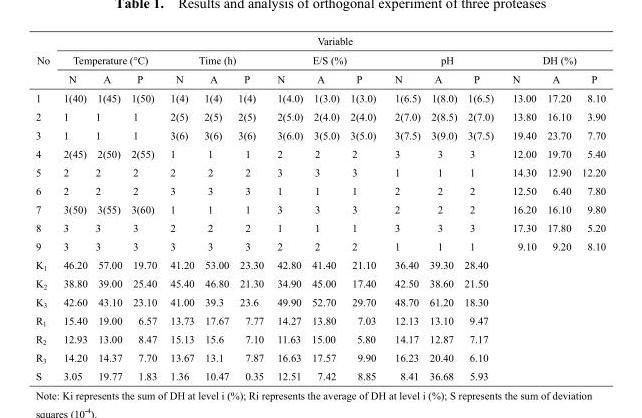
<table><thead><tr><td rowspan="3">No</td><td colspan="15">Variable</td></tr><tr><td colspan="3">Temperature (°C)</td><td colspan="3">Time (h)</td><td colspan="3">E/S (%)</td><td colspan="3">pH</td><td colspan="3">DH (%)</td></tr><tr><td>N</td><td>A</td><td>P</td><td>N</td><td>A</td><td>P</td><td>N</td><td>A</td><td>P</td><td>N</td><td>A</td><td>P</td><td>N</td><td>A</td><td>P</td></tr></thead><tbody><tr><td>1</td><td>1(40)</td><td>1(45)</td><td>1(50)</td><td>1(4)</td><td>1(4)</td><td>1(4)</td><td>1(4.0)</td><td>1(3.0)</td><td>1(3.0)</td><td>1(6.5)</td><td>1(8.0)</td><td>1(6.5)</td><td>13.00</td><td>17.20</td><td>8.10</td></tr><tr><td>2</td><td>1</td><td>1</td><td>1</td><td>2(5)</td><td>2(5)</td><td>2(5)</td><td>2(5.0)</td><td>2(4.0)</td><td>2(4.0)</td><td>2(7.0)</td><td>2(8.5)</td><td>2(7.0)</td><td>13.80</td><td>16.10</td><td>3.90</td></tr><tr><td>3</td><td>1</td><td>1</td><td>1</td><td>3(6)</td><td>3(6)</td><td>3(6)</td><td>3(6.0)</td><td>3(5.0)</td><td>3(5.0)</td><td>3(7.5)</td><td>3(9.0)</td><td>3(7.5)</td><td>19.40</td><td>23.70</td><td>7.70</td></tr><tr><td>4</td><td>2(45)</td><td>2(50)</td><td>2(55)</td><td>1</td><td>1</td><td>1</td><td>2</td><td>2</td><td>2</td><td>3</td><td>3</td><td>3</td><td>12.00</td><td>19.70</td><td>5.40</td></tr><tr><td>5</td><td>2</td><td>2</td><td>2</td><td>2</td><td>2</td><td>2</td><td>3</td><td>3</td><td>3</td><td>1</td><td>1</td><td>1</td><td>14.30</td><td>12.90</td><td>12.20</td></tr><tr><td>6</td><td>2</td><td>2</td><td>2</td><td>3</td><td>3</td><td>3</td><td>1</td><td>1</td><td>1</td><td>2</td><td>2</td><td>2</td><td>12.50</td><td>6.40</td><td>7.80</td></tr><tr><td>7</td><td>3(50)</td><td>3(55)</td><td>3(60)</td><td>1</td><td>1</td><td>1</td><td>3</td><td>3</td><td>3</td><td>2</td><td>2</td><td>2</td><td>16.20</td><td>16.10</td><td>9.80</td></tr><tr><td>8</td><td>3</td><td>3</td><td>3</td><td>2</td><td>2</td><td>2</td><td>1</td><td>1</td><td>1</td><td>3</td><td>3</td><td>3</td><td>17.30</td><td>17.80</td><td>5.20</td></tr><tr><td>9</td><td>3</td><td>3</td><td>3</td><td>3</td><td>3</td><td>3</td><td>2</td><td>2</td><td>2</td><td>1</td><td>1</td><td>1</td><td>9.10</td><td>9.20</td><td>8.10</td></tr><tr><td><sup>K</sup>1</td><td>46.20</td><td>57.00</td><td>19.70</td><td>41.20</td><td>53.00</td><td>23.30</td><td>42.80</td><td>41.40</td><td>21.10</td><td>36.40</td><td>39.30</td><td>28.40</td><td></td><td></td><td></td></tr><tr><td><sup>K</sup>2</td><td>38.80</td><td>39.00</td><td>25.40</td><td>45.40</td><td>46.80</td><td>21.30</td><td>34.90</td><td>45.00</td><td>17.40</td><td>42.50</td><td>38.60</td><td>21.50</td><td></td><td></td><td></td></tr><tr><td><sup>K</sup>3</td><td>42.60</td><td>43.10</td><td>23.10</td><td>41.00</td><td>39.3</td><td>23.6</td><td>49.90</td><td>52.70</td><td>29.70</td><td>48.70</td><td>61.20</td><td>18.30</td><td></td><td></td><td></td></tr><tr><td><sup>R</sup>1</td><td>15.40</td><td>19.00</td><td>6.57</td><td>13.73</td><td>17.67</td><td>7.77</td><td>14.27</td><td>13.80</td><td>7.03</td><td>12.13</td><td>13.10</td><td>9.47</td><td></td><td></td><td></td></tr><tr><td><sup>R</sup>2</td><td>12.93</td><td>13.00</td><td>8.47</td><td>15.13</td><td>15.6</td><td>7.10</td><td>11.63</td><td>15.00</td><td>5.80</td><td>14.17</td><td>12.87</td><td>7.17</td><td></td><td></td><td></td></tr><tr><td><sup>R</sup>3</td><td>14.20</td><td>14.37</td><td>7.70</td><td>13.67</td><td>13.1</td><td>7.87</td><td>16.63</td><td>17.57</td><td>9.90</td><td>16.23</td><td>20.40</td><td>6.10</td><td></td><td></td><td></td></tr><tr><td>S</td><td>3.05</td><td>19.77</td><td>1.83</td><td>1.36</td><td>10.47</td><td>0.35</td><td>12.51</td><td>7.42</td><td>8.85</td><td>8.41</td><td>36.68</td><td>5.93</td><td></td><td></td><td></td></tr></tbody></table>